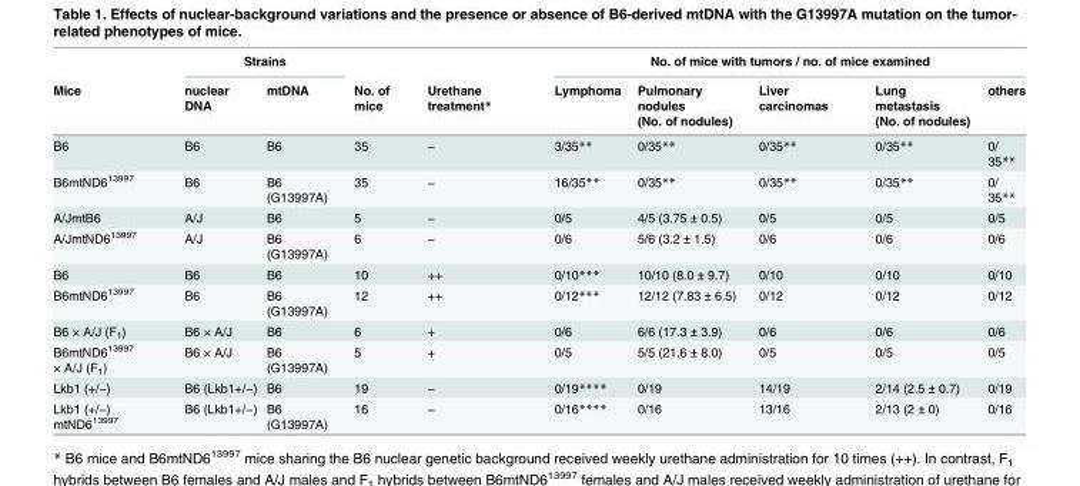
<table><thead><tr><td rowspan="2">Mice</td><td colspan="2">Strains</td><td rowspan="2">No. of mice</td><td rowspan="2">Urethane treatment*</td><td colspan="5">No. of mice with tumors / no. of mice examined</td></tr><tr><td>nuclear DNA</td><td>mtDNA</td><td>Lymphoma</td><td>Pulmonary nodules (No. of nodules)</td><td>Liver carcinomas</td><td>Lung metastasis (No. of nodules)</td><td>others</td></tr></thead><tbody><tr><td>B6</td><td>B6</td><td>B6</td><td>35</td><td>−</td><td>3/35**</td><td>0/35**</td><td>0/35**</td><td>0/35**</td><td>0/ 35**</td></tr><tr><td>B6mtND6<sup>13997</sup></td><td>B6</td><td>B6 (G13997A)</td><td>35</td><td>−</td><td>16/35**</td><td>0/35**</td><td>0/35**</td><td>0/35**</td><td>0/ 35**</td></tr><tr><td>A/JmtB6</td><td>A/J</td><td>B6</td><td>5</td><td>−</td><td>0/5</td><td>4/5 (3.75 ± 0.5)</td><td>0/5</td><td>0/5</td><td>0/5</td></tr><tr><td>A/JmtND6<sup>13997</sup></td><td>A/J</td><td>B6 (G13997A)</td><td>6</td><td>−</td><td>0/6</td><td>5/6 (3.2 ± 1.5)</td><td>0/6</td><td>0/6</td><td>0/6</td></tr><tr><td>B6</td><td>B6</td><td>B6</td><td>10</td><td>++</td><td>0/10***</td><td>10/10 (8.0 ± 9.7)</td><td>0/10</td><td>0/10</td><td>0/10</td></tr><tr><td>B6mtND6<sup>13997</sup></td><td>B6</td><td>B6 (G13997A)</td><td>12</td><td>++</td><td>0/12***</td><td>12/12 (7.83 ± 6.5)</td><td>0/12</td><td>0/12</td><td>0/12</td></tr><tr><td>B6 × A/J (F<sub>1</sub>)</td><td>B6 × A/J</td><td>B6</td><td>6</td><td>+</td><td>0/6</td><td>6/6 (17.3 ± 3.9)</td><td>0/6</td><td>0/6</td><td>0/6</td></tr><tr><td>B6mtND6<sup>13997</sup> × A/J (F<sub>1</sub>)</td><td>B6 × A/J</td><td>B6 (G13997A)</td><td>5</td><td>+</td><td>0/5</td><td>5/5 (21.6 ± 8.0)</td><td>0/5</td><td>0/5</td><td>0/5</td></tr><tr><td>Lkb1 (+/−)</td><td>B6 (Lkb1+/−)</td><td>B6</td><td>19</td><td>−</td><td>0/19****</td><td>0/19</td><td>14/19</td><td>2/14 (2.5 ± 0.7)</td><td>0/19</td></tr><tr><td>Lkb1 (+/−) mtND6<sup>13997</sup></td><td>B6 (Lkb1+/−)</td><td>B6 (G13997A)</td><td>16</td><td>−</td><td>0/16****</td><td>0/16</td><td>13/16</td><td>2/13 (2 ± 0)</td><td>0/16</td></tr></tbody></table>